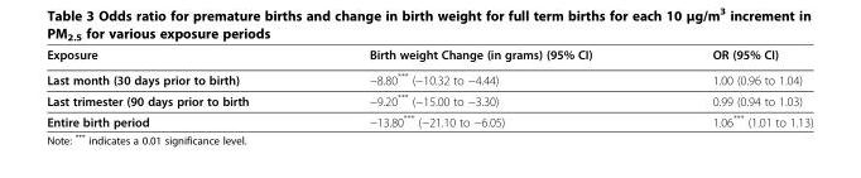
<table><thead><tr><td>Exposure</td><td>Birth weight Change (in grams) (95% CI)</td><td>OR (95% CI)</td></tr></thead><tbody><tr><td>Last month (30 days prior to birth)</td><td>−8.80*** (−10.32 to −4.44)</td><td>1.00 (0.96 to 1.04)</td></tr><tr><td>Last trimester (90 days prior to birth</td><td>−9.20*** (−15.00 to −3.30)</td><td>0.99 (0.94 to 1.03)</td></tr><tr><td>Entire birth period</td><td>−13.80*** (−21.10 to −6.05)</td><td>1.06*** (1.01 to 1.13)</td></tr></tbody></table>